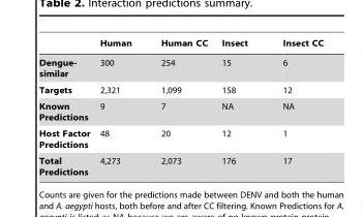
<table><thead><tr><td></td><td>Human</td><td>Human CC</td><td>Insect</td><td>Insect CC</td></tr></thead><tbody><tr><td>Dengue- similar</td><td>300</td><td>254</td><td>15</td><td>6</td></tr><tr><td>Targets</td><td>2,321</td><td>1,099</td><td>158</td><td>12</td></tr><tr><td>Known Predictions</td><td>9</td><td>7</td><td>NA</td><td>NA</td></tr><tr><td>Host Factor Predictions</td><td>48</td><td>20</td><td>12</td><td>1</td></tr><tr><td>Total Predictions</td><td>4,273</td><td>2,073</td><td>176</td><td>17</td></tr></tbody></table>